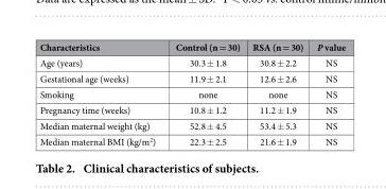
<table><thead><tr><td>Characteristics</td><td>Control (n = 30)</td><td>RSA (n = 30)</td><td>P value</td></tr></thead><tbody><tr><td>Age (years)</td><td>30.3 ± 1.8</td><td>30.8 ± 2.2</td><td>NS</td></tr><tr><td>Gestational age (weeks)</td><td>11.9 ± 2.1</td><td>12.6 ± 2.6</td><td>NS</td></tr><tr><td>Smoking</td><td>none</td><td>none</td><td>NS</td></tr><tr><td>Pregnancy time (weeks)</td><td>10.8 ± 1.2</td><td>11.2 ± 1.9</td><td>NS</td></tr><tr><td>Median maternal weight (kg)</td><td>52.8 ± 4.5</td><td>53.4 ± 5.3</td><td>NS</td></tr><tr><td>Median maternal BMI (kg/m<sup>2</sup>)</td><td>22.3 ± 2.5</td><td>21.6 ± 1.9</td><td>NS</td></tr></tbody></table>